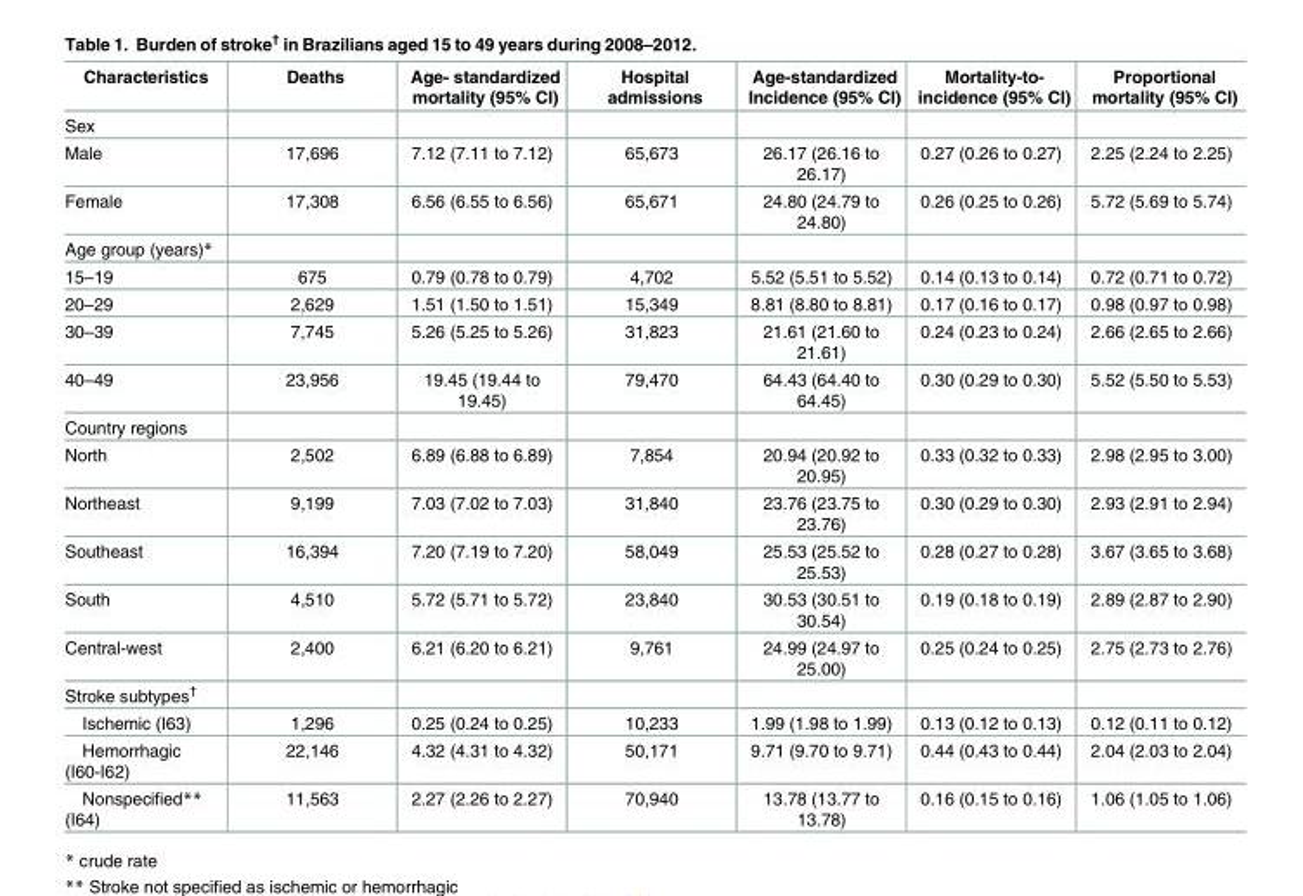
<table><thead><tr><td>Characteristics</td><td>Deaths</td><td>Age- standardized mortality (95% CI)</td><td>Hospital admissions</td><td>Age-standardized Incidence (95% CI)</td><td>Mortality-to- incidence (95% CI)</td><td>Proportional mortality (95% CI)</td></tr></thead><tbody><tr><td colspan="7">Sex</td></tr><tr><td>Male</td><td>17,696</td><td>7.12 (7.11 to 7.12)</td><td>65,673</td><td>26.17 (26.16 to 26.17)</td><td>0.27 (0.26 to 0.27)</td><td>2.25 (2.24 to 2.25)</td></tr><tr><td>Female</td><td>17,308</td><td>6.56 (6.55 to 6.56)</td><td>65,671</td><td>24.80 (24.79 to 24.80)</td><td>0.26 (0.25 to 0.26)</td><td>5.72 (5.69 to 5.74)</td></tr><tr><td colspan="7">Age group (years)*</td></tr><tr><td>15–19</td><td>675</td><td>0.79 (0.78 to 0.79)</td><td>4,702</td><td>5.52 (5.51 to 5.52)</td><td>0.14 (0.13 to 0.14)</td><td>0.72 (0.71 to 0.72)</td></tr><tr><td>20–29</td><td>2,629</td><td>1.51 (1.50 to 1.51)</td><td>15,349</td><td>8.81 (8.80 to 8.81)</td><td>0.17 (0.16 to 0.17)</td><td>0.98 (0.97 to 0.98)</td></tr><tr><td>30–39</td><td>7,745</td><td>5.26 (5.25 to 5.26)</td><td>31,823</td><td>21.61 (21.60 to 21.61)</td><td>0.24 (0.23 to 0.24)</td><td>2.66 (2.65 to 2.66)</td></tr><tr><td>40–49</td><td>23,956</td><td>19.45 (19.44 to 19.45)</td><td>79,470</td><td>64.43 (64.40 to 64.45)</td><td>0.30 (0.29 to 0.30)</td><td>5.52 (5.50 to 5.53)</td></tr><tr><td colspan="7">Country regions</td></tr><tr><td>North</td><td>2,502</td><td>6.89 (6.88 to 6.89)</td><td>7,854</td><td>20.94 (20.92 to 20.95)</td><td>0.33 (0.32 to 0.33)</td><td>2.98 (2.95 to 3.00)</td></tr><tr><td>Northeast</td><td>9,199</td><td>7.03 (7.02 to 7.03)</td><td>31,840</td><td>23.76 (23.75 to 23.76)</td><td>0.30 (0.29 to 0.30)</td><td>2.93 (2.91 to 2.94)</td></tr><tr><td>Southeast</td><td>16,394</td><td>7.20 (7.19 to 7.20)</td><td>58,049</td><td>25.53 (25.52 to 25.53)</td><td>0.28 (0.27 to 0.28)</td><td>3.67 (3.65 to 3.68)</td></tr><tr><td>South</td><td>4,510</td><td>5.72 (5.71 to 5.72)</td><td>23,840</td><td>30.53 (30.51 to 30.54)</td><td>0.19 (0.18 to 0.19)</td><td>2.89 (2.87 to 2.90)</td></tr><tr><td>Central-west</td><td>2,400</td><td>6.21 (6.20 to 6.21)</td><td>9,761</td><td>24.99 (24.97 to 25.00)</td><td>0.25 (0.24 to 0.25)</td><td>2.75 (2.73 to 2.76)</td></tr><tr><td colspan="7">Stroke subtypes<sup>†</sup></td></tr><tr><td>Ischemic (I63)</td><td>1,296</td><td>0.25 (0.24 to 0.25)</td><td>10,233</td><td>1.99 (1.98 to 1.99)</td><td>0.13 (0.12 to 0.13)</td><td>0.12 (0.11 to 0.12)</td></tr><tr><td>Hemorrhagic (I60-I62)</td><td>22,146</td><td>4.32 (4.31 to 4.32)</td><td>50,171</td><td>9.71 (9.70 to 9.71)</td><td>0.44 (0.43 to 0.44)</td><td>2.04 (2.03 to 2.04)</td></tr><tr><td>Nonspecified** (I64)</td><td>11,563</td><td>2.27 (2.26 to 2.27)</td><td>70,940</td><td>13.78 (13.77 to 13.78)</td><td>0.16 (0.15 to 0.16)</td><td>1.06 (1.05 to 1.06)</td></tr></tbody></table>